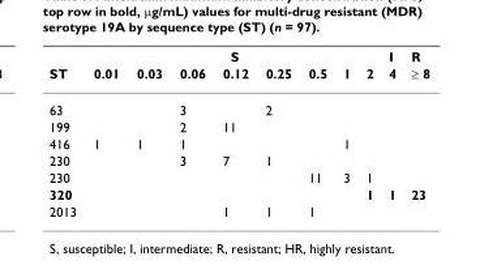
<table><thead><tr><td rowspan="2">ST</td><td colspan="8">S</td><td rowspan="2">I 4</td><td rowspan="2">R ≥ 8</td></tr><tr><td>0.01</td><td>0.03</td><td>0.06</td><td>0.12</td><td>0.25</td><td>0.5</td><td>1</td><td>2</td></tr></thead><tbody><tr><td>63</td><td></td><td></td><td>3</td><td></td><td>2</td><td></td><td></td><td></td><td></td><td></td></tr><tr><td>199</td><td></td><td></td><td>2</td><td>11</td><td></td><td></td><td></td><td></td><td></td><td></td></tr><tr><td>416</td><td>1</td><td>1</td><td>1</td><td></td><td></td><td></td><td>1</td><td></td><td></td><td></td></tr><tr><td>230</td><td></td><td></td><td>3</td><td>7</td><td>1</td><td></td><td></td><td></td><td></td><td></td></tr><tr><td>230</td><td></td><td></td><td></td><td></td><td></td><td>11</td><td>3</td><td>1</td><td></td><td></td></tr><tr><td>320</td><td></td><td></td><td></td><td></td><td></td><td></td><td></td><td>1</td><td>1</td><td>23</td></tr><tr><td>2013</td><td></td><td></td><td></td><td>1</td><td>1</td><td>1</td><td></td><td></td><td></td><td></td></tr></tbody></table>